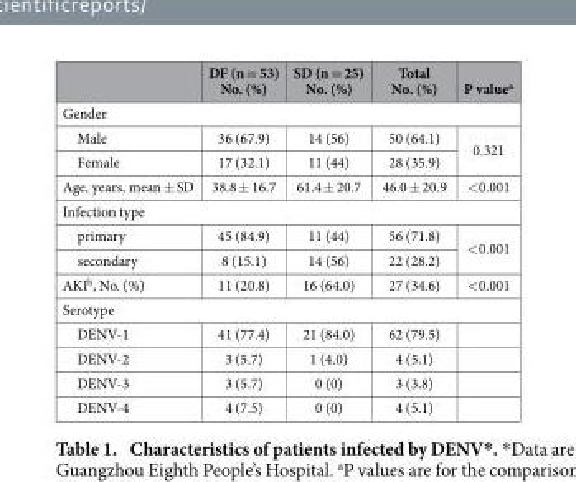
<table><thead><tr><td></td><td>DF (n = 53) No. (%)</td><td>SD (n = 25) No. (%)</td><td>Total No. (%)</td><td>P value<sup>a</sup></td></tr></thead><tbody><tr><td colspan="5">Gender</td></tr><tr><td>Male</td><td>36 (67.9)</td><td>14 (56)</td><td>50 (64.1)</td><td rowspan="2">0.321</td></tr><tr><td>Female</td><td>17 (32.1)</td><td>11 (44)</td><td>28 (35.9)</td></tr><tr><td>Age, years, mean ± SD</td><td>38.8 ± 16.7</td><td>61.4 ± 20.7</td><td>46.0 ± 20.9</td><td>&lt; 0.001</td></tr><tr><td colspan="5">Infection type</td></tr><tr><td>primary</td><td>45 (84.9)</td><td>11 (44)</td><td>56 (71.8)</td><td rowspan="2">&lt; 0.001</td></tr><tr><td>secondary</td><td>8 (15.1)</td><td>14 (56)</td><td>22 (28.2)</td></tr><tr><td>AKI<sup>b</sup>, No. (%)</td><td>11 (20.8)</td><td>16 (64.0)</td><td>27 (34.6)</td><td>&lt; 0.001</td></tr><tr><td colspan="5">Serotype</td></tr><tr><td>DENV-1</td><td>41 (77.4)</td><td>21 (84.0)</td><td>62 (79.5)</td><td></td></tr><tr><td>DENV-2</td><td>3 (5.7)</td><td>1 (4.0)</td><td>4 (5.1)</td><td></td></tr><tr><td>DENV-3</td><td>3 (5.7)</td><td>0 (0)</td><td>3 (3.8)</td><td></td></tr><tr><td>DENV-4</td><td>4 (7.5)</td><td>0 (0)</td><td>4 (5.1)</td><td></td></tr></tbody></table>